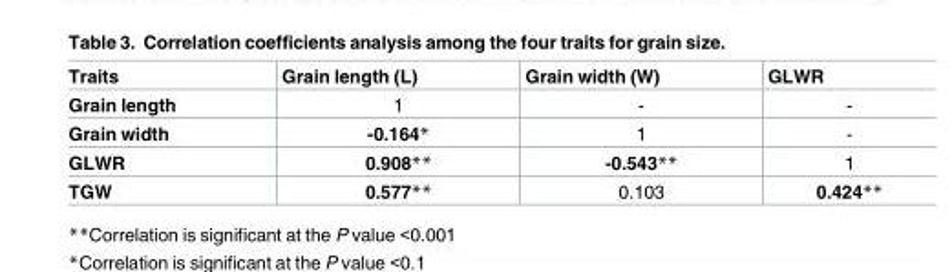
<table><thead><tr><td>Traits</td><td>Grain length (L)</td><td>Grain width (W)</td><td>GLWR</td></tr></thead><tbody><tr><td>Grain length</td><td>1</td><td>-</td><td>-</td></tr><tr><td>Grain width</td><td>-0.164*</td><td>1</td><td>-</td></tr><tr><td>GLWR</td><td>0.908**</td><td>-0.543**</td><td>1</td></tr><tr><td>TGW</td><td>0.577**</td><td>0.103</td><td>0.424**</td></tr></tbody></table>